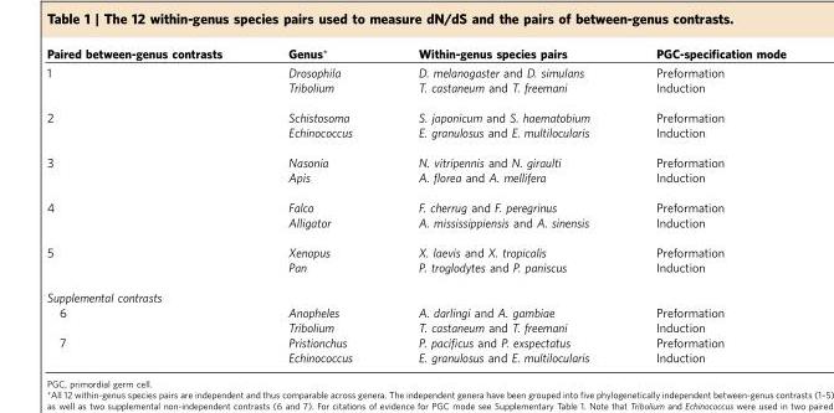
<table><thead><tr><td>Paired between-genus contrasts</td><td>Genus*</td><td>Within-genus species pairs</td><td>PGC-specification mode</td></tr></thead><tbody><tr><td rowspan="2">1</td><td>Drosophila</td><td>D. melanogaster and D. simulans</td><td>Preformation</td></tr><tr><td>Tribolium</td><td>T. castaneum and T. freemani</td><td>Induction</td></tr><tr><td rowspan="2">2</td><td>Schistosoma</td><td>S. japonicum and S. haematobium</td><td>Preformation</td></tr><tr><td>Echinococcus</td><td>E. granulosus and E. multilocularis</td><td>Induction</td></tr><tr><td rowspan="2">3</td><td>Nasonia</td><td>N. vitripennis and N. giraulti</td><td>Preformation</td></tr><tr><td>Apis</td><td>A. florea and A. mellifera</td><td>Induction</td></tr><tr><td rowspan="2">4</td><td>Falco</td><td>F. cherrug and F. peregrinus</td><td>Preformation</td></tr><tr><td>Alligator</td><td>A. mississippiensis and A. sinensis</td><td>Induction</td></tr><tr><td rowspan="2">5</td><td>Xenopus</td><td>X. laevis and X. tropicalis</td><td>Preformation</td></tr><tr><td>Pan</td><td>P. troglodytes and P. paniscus</td><td>Induction</td></tr><tr><td colspan="4">Supplemental contrasts</td></tr><tr><td rowspan="2">6</td><td>Anopheles</td><td>A. darlingi and A. gambiae</td><td>Preformation</td></tr><tr><td>Tribolium</td><td>T. castaneum and T. freemani</td><td>Induction</td></tr><tr><td rowspan="2">7</td><td>Pristionchus</td><td>P. pacificus and P. exspectatus</td><td>Preformation</td></tr><tr><td>Echinococcus</td><td>E. granulosus and E. multilocularis</td><td>Induction</td></tr></tbody></table>